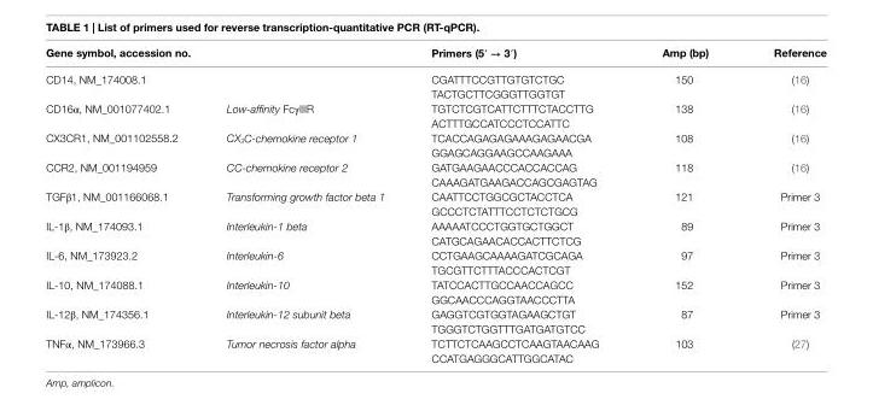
<table><thead><tr><td>gene symbol, accession no.</td><td></td><td>Primers (5′ → 3′)</td><td>amp (bp)</td><td>reference</td></tr></thead><tbody><tr><td rowspan="2">CD14, NM_174008.1</td><td rowspan="2"></td><td>CGATTTCCGTTGTGTCTGC</td><td rowspan="2">150</td><td rowspan="2">(16)</td></tr><tr><td>TACTGCTTCGGGTTGGTGT</td></tr><tr><td rowspan="2">CD16α, NM_001077402.1</td><td rowspan="2">Low-affinity FcγIIIR</td><td>TGTCTCGTCATTCTTTCTACCTTG</td><td rowspan="2">138</td><td rowspan="2">(16)</td></tr><tr><td>ACTTTGCCATCCCTCCATTC</td></tr><tr><td rowspan="2">CX3CR1, NM_001102558.2</td><td rowspan="2">CX<sub>3</sub>C-chemokine receptor 1</td><td>TCACCAGAGAGAAAGAGAACGA</td><td rowspan="2">108</td><td rowspan="2">(16)</td></tr><tr><td>GGAGCAGGAAGCCAAGAAA</td></tr><tr><td rowspan="2">CCR2, NM_001194959</td><td rowspan="2">CC-chemokine receptor 2</td><td>GATGAAGAACCCACCACCAG</td><td rowspan="2">118</td><td rowspan="2">(16)</td></tr><tr><td>CAAAGATGAAGACCAGCGAGTAG</td></tr><tr><td rowspan="2">TGFβ1, NM_001166068.1</td><td rowspan="2">Transforming growth factor beta 1</td><td>CAATTCCTGGCGCTACCTCA</td><td rowspan="2">121</td><td rowspan="2">Primer 3</td></tr><tr><td>GCCCTCTATTTCCTCTCTGCG</td></tr><tr><td rowspan="2">IL-1β, NM_174093.1</td><td rowspan="2">Interleukin-1 beta</td><td>AAAAATCCCTGGTGCTGGCT</td><td rowspan="2">89</td><td rowspan="2">Primer 3</td></tr><tr><td>CATGCAGAACACCACTTCTCG</td></tr><tr><td rowspan="2">IL-6, NM_173923.2</td><td rowspan="2">Interleukin-6</td><td>CCTGAAGCAAAAGATCGCAGA</td><td rowspan="2">97</td><td rowspan="2">Primer 3</td></tr><tr><td>TGCGTTCTTTACCCACTCGT</td></tr><tr><td rowspan="2">IL-10, NM_174088.1</td><td rowspan="2">Interleukin-10</td><td>TATCCACTTGCCAACCAGCC</td><td rowspan="2">152</td><td rowspan="2">Primer 3</td></tr><tr><td>GGCAACCCAGGTAACCCTTA</td></tr><tr><td rowspan="2">IL-12β, NM_174356.1</td><td rowspan="2">Interleukin-12 subunit beta</td><td>GAGGTCGTGGTAGAAGCTGT</td><td rowspan="2">87</td><td rowspan="2">Primer 3</td></tr><tr><td>TGGGTCTGGTTTGATGATGTCC</td></tr><tr><td rowspan="2">TNFα, NM_173966.3</td><td rowspan="2">Tumor necrosis factor alpha</td><td>TCTTCTCAAGCCTCAAGTAACAAG</td><td rowspan="2">103</td><td rowspan="2">(27)</td></tr><tr><td>CCATGAGGGCATTGGCATAC</td></tr></tbody></table>